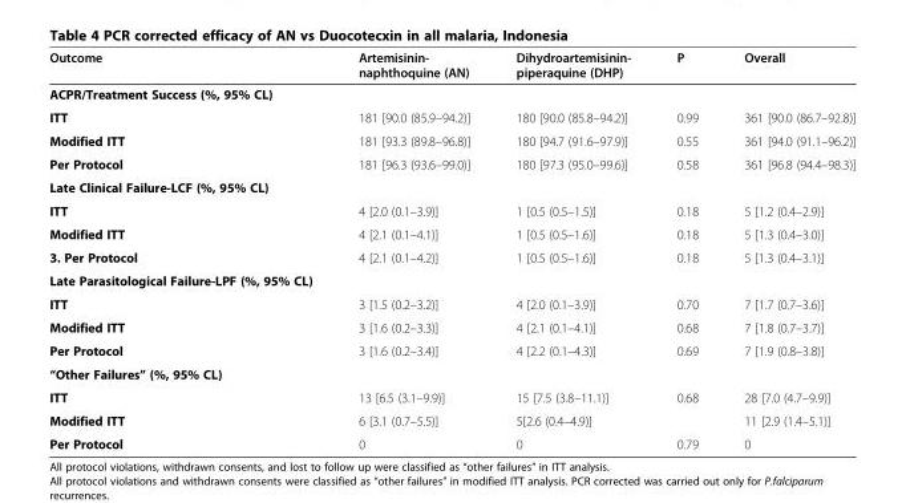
<table><thead><tr><td>Outcome</td><td>Artemisinin- naphthoquine (AN)</td><td>Dihydroartemisinin- piperaquine (DHP)</td><td>P</td><td>Overall</td></tr></thead><tbody><tr><td colspan="5">ACPR/Treatment Success (%, 95% CL)</td></tr><tr><td>ITT</td><td>181 [90.0 (85.9–94.2)]</td><td>180 [90.0 (85.8–94.2)]</td><td>0.99</td><td>361 [90.0 (86.7–92.8)]</td></tr><tr><td>Modified ITT</td><td>181 [93.3 (89.8–96.8)]</td><td>180 [94.7 (91.6–97.9)]</td><td>0.55</td><td>361 [94.0 (91.1–96.2)]</td></tr><tr><td>Per Protocol</td><td>181 [96.3 (93.6–99.0)]</td><td>180 [97.3 (95.0–99.6)]</td><td>0.58</td><td>361 [96.8 (94.4–98.3)]</td></tr><tr><td colspan="5">Late Clinical Failure-LCF (%, 95% CL)</td></tr><tr><td>ITT</td><td>4 [2.0 (0.1–3.9)]</td><td>1 [0.5 (0.5–1.5)]</td><td>0.18</td><td>5 [1.2 (0.4–2.9)]</td></tr><tr><td>Modified ITT</td><td>4 [2.1 (0.1–4.1)]</td><td>1 [0.5 (0.5–1.6)]</td><td>0.18</td><td>5 [1.3 (0.4–3.0)]</td></tr><tr><td>3. Per Protocol</td><td>4 [2.1 (0.1–4.2)]</td><td>1 [0.5 (0.5–1.6)]</td><td>0.18</td><td>5 [1.3 (0.4–3.1)]</td></tr><tr><td colspan="5">Late Parasitological Failure-LPF (%, 95% CL)</td></tr><tr><td>ITT</td><td>3 [1.5 (0.2–3.2)]</td><td>4 [2.0 (0.1–3.9)]</td><td>0.70</td><td>7 [1.7 (0.7–3.6)]</td></tr><tr><td>Modified ITT</td><td>3 [1.6 (0.2–3.3)]</td><td>4 [2.1 (0.1–4.1)]</td><td>0.68</td><td>7 [1.8 (0.7–3.7)]</td></tr><tr><td>Per Protocol</td><td>3 [1.6 (0.2–3.4)]</td><td>4 [2.2 (0.1–4.3)]</td><td>0.69</td><td>7 [1.9 (0.8–3.8)]</td></tr><tr><td colspan="5">“Other Failures” (%, 95% CL)</td></tr><tr><td>ITT</td><td>13 [6.5 (3.1–9.9)]</td><td>15 [7.5 (3.8–11.1)]</td><td>0.68</td><td>28 [7.0 (4.7–9.9)]</td></tr><tr><td>Modified ITT</td><td>6 [3.1 (0.7–5.5)]</td><td>5[2.6 (0.4–4.9)]</td><td></td><td>11 [2.9 (1.4–5.1)]</td></tr><tr><td>Per Protocol</td><td>0</td><td>0</td><td>0.79</td><td>0</td></tr></tbody></table>